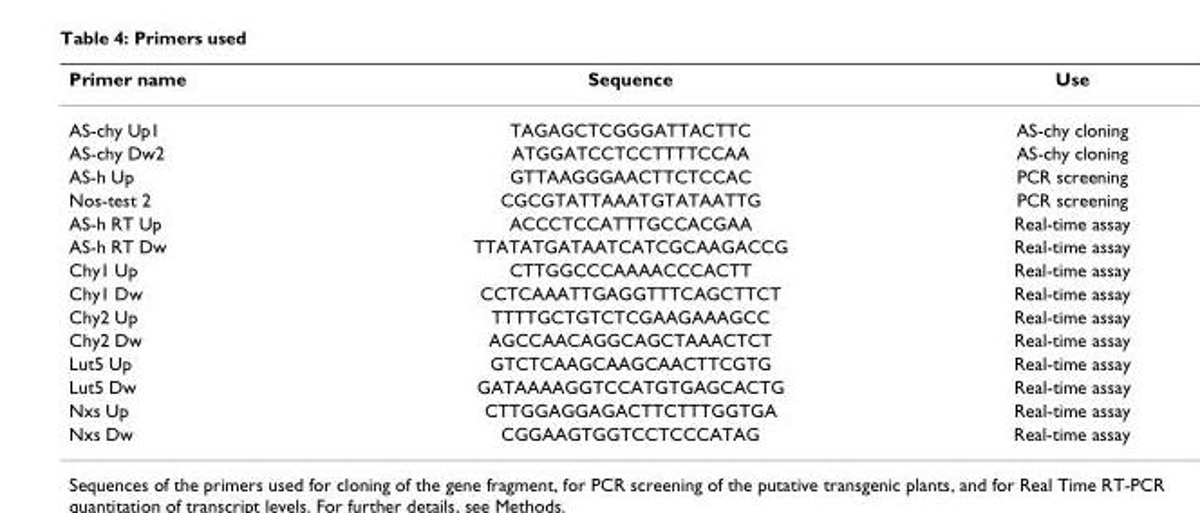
<table><thead><tr><td>Primer name</td><td>Sequence</td><td>Use</td></tr></thead><tbody><tr><td>AS-chy Up1</td><td>TAGAGCTCGGGATTACTTC</td><td>AS-chy cloning</td></tr><tr><td>AS-chy Dw2</td><td>ATGGATCCTCCTTTTCCAA</td><td>AS-chy cloning</td></tr><tr><td>AS-h Up</td><td>GTTAAGGGAACTTCTCCAC</td><td>PCR screening</td></tr><tr><td>Nos-test 2</td><td>CGCGTATTAAATGTATAATTG</td><td>PCR screening</td></tr><tr><td>AS-h RT Up</td><td>ACCCTCCATTTGCCACGAA</td><td>Real-time assay</td></tr><tr><td>AS-h RT Dw</td><td>TTATATGATAATCATCGCAAGACCG</td><td>Real-time assay</td></tr><tr><td>Chy1 Up</td><td>CTTGGCCCAAAACCCACTT</td><td>Real-time assay</td></tr><tr><td>Chy1 Dw</td><td>CCTCAAATTGAGGTTTCAGCTTCT</td><td>Real-time assay</td></tr><tr><td>Chy2 Up</td><td>TTTTGCTGTCTCGAAGAAAGCC</td><td>Real-time assay</td></tr><tr><td>Chy2 Dw</td><td>AGCCAACAGGCAGCTAAACTCT</td><td>Real-time assay</td></tr><tr><td>Lut5 Up</td><td>GTCTCAAGCAAGCAACTTCGTG</td><td>Real-time assay</td></tr><tr><td>Lut5 Dw</td><td>GATAAAAGGTCCATGTGAGCACTG</td><td>Real-time assay</td></tr><tr><td>Nxs Up</td><td>CTTGGAGGAGACTTCTTTGGTGA</td><td>Real-time assay</td></tr><tr><td>Nxs Dw</td><td>CGGAAGTGGTCCTCCCATAG</td><td>Real-time assay</td></tr></tbody></table>